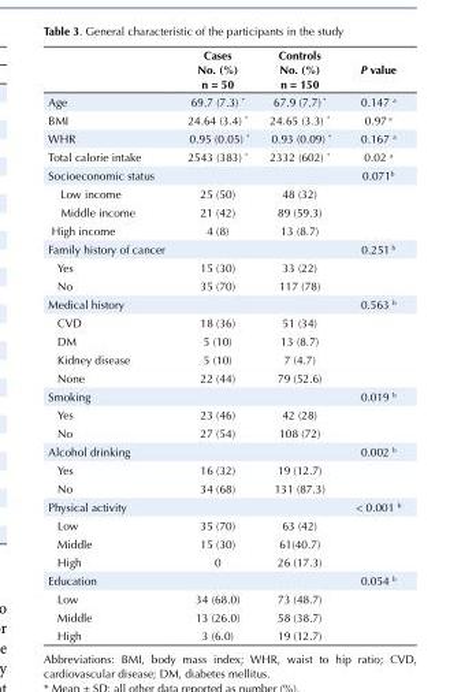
<table><thead><tr><td></td><td>Cases No. (%) n = 50</td><td>Controls No. (%) n = 150</td><td>P value</td></tr></thead><tbody><tr><td>Age</td><td>69.7 (7.3) *</td><td>67.9 (7.7) *</td><td>0.147 <sup>a</sup></td></tr><tr><td>BMI</td><td>24.64 (3.4) *</td><td>24.65 (3.3) *</td><td>0.97 <sup>a</sup></td></tr><tr><td>WHR</td><td>0.95 (0.05) *</td><td>0.93 (0.09) *</td><td>0.167 <sup>a</sup></td></tr><tr><td>Total calorie intake</td><td>2543 (383) *</td><td>2332 (602) *</td><td>0.02 <sup>a</sup></td></tr><tr><td>Socioeconomic status</td><td></td><td></td><td>0.071<sup>b</sup></td></tr><tr><td>Low income</td><td>25 (50)</td><td>48 (32)</td><td></td></tr><tr><td>Middle income</td><td>21 (42)</td><td>89 (59.3)</td><td></td></tr><tr><td>High income</td><td>4 (8)</td><td>13 (8.7)</td><td></td></tr><tr><td>Family history of cancer</td><td></td><td></td><td>0.251 <sup>b</sup></td></tr><tr><td>Yes</td><td>15 (30)</td><td>33 (22)</td><td></td></tr><tr><td>No</td><td>35 (70)</td><td>117 (78)</td><td></td></tr><tr><td>Medical history</td><td></td><td></td><td>0.563 <sup>b</sup></td></tr><tr><td>CVD</td><td>18 (36)</td><td>51 (34)</td><td></td></tr><tr><td>DM</td><td>5 (10)</td><td>13 (8.7)</td><td></td></tr><tr><td>Kidney disease</td><td>5 (10)</td><td>7 (4.7)</td><td></td></tr><tr><td>None</td><td>22 (44)</td><td>79 (52.6)</td><td></td></tr><tr><td>Smoking</td><td></td><td></td><td>0.019 <sup>b</sup></td></tr><tr><td>Yes</td><td>23 (46)</td><td>42 (28)</td><td></td></tr><tr><td>No</td><td>27 (54)</td><td>108 (72)</td><td></td></tr><tr><td>Alcohol drinking</td><td></td><td></td><td>0.002 <sup>b</sup></td></tr><tr><td>Yes</td><td>16 (32)</td><td>19 (12.7)</td><td></td></tr><tr><td>No</td><td>34 (68)</td><td>131 (87.3)</td><td></td></tr><tr><td>Physical activity</td><td></td><td></td><td>&lt; 0.001 <sup>b</sup></td></tr><tr><td>Low</td><td>35 (70)</td><td>63 (42)</td><td></td></tr><tr><td>Middle</td><td>15 (30)</td><td>61(40.7)</td><td></td></tr><tr><td>High</td><td>0</td><td>26 (17.3)</td><td></td></tr><tr><td>Education</td><td></td><td></td><td>0.054 <sup>b</sup></td></tr><tr><td>Low</td><td>34 (68.0)</td><td>73 (48.7)</td><td></td></tr><tr><td>Middle</td><td>13 (26.0)</td><td>58 (38.7)</td><td></td></tr><tr><td>High</td><td>3 (6.0)</td><td>19 (12.7)</td><td></td></tr></tbody></table>